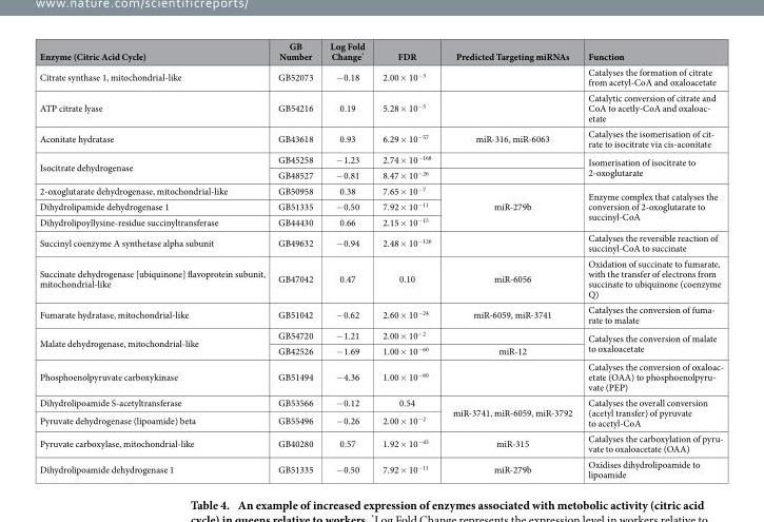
<table><thead><tr><td>Enzyme (Citric Acid Cycle)</td><td>GB Number</td><td>Log Fold Change*</td><td>FDR</td><td>Predicted Targeting miRNAs</td><td>Function</td></tr></thead><tbody><tr><td>Citrate synthase 1, mitochondrial-like</td><td>GB52073</td><td>− 0.18</td><td>2.00 × 10<sup>−3</sup></td><td></td><td>Catalyses the formation of citrate from acetyl-CoA and oxaloacetate</td></tr><tr><td>ATP citrate lyase</td><td>GB54216</td><td>0.19</td><td>5.28 × 10<sup>−5</sup></td><td></td><td>Catalytic conversion of citrate and CoA to acetly-CoA and oxaloac- etate</td></tr><tr><td>Aconitate hydratase</td><td>GB43618</td><td>0.93</td><td>6.29 × 10<sup>−57</sup></td><td>miR-316, miR-6063</td><td>Catalyses the isomerisation of cit- rate to isocitrate via cis-aconitate</td></tr><tr><td rowspan="2">Isocitrate dehydrogenase</td><td>GB45258</td><td>− 1.23</td><td>2.74 × 10<sup>−168</sup></td><td></td><td rowspan="2">Isomerisation of isocitrate to 2-oxoglutarate</td></tr><tr><td>GB48527</td><td>− 0.81</td><td>8.47 × 10<sup>−26</sup></td><td></td></tr><tr><td>2-oxoglutarate dehydrogenase, mitochondrial-like</td><td>GB50958</td><td>0.38</td><td>7.65 × 10<sup>−7</sup></td><td rowspan="3">miR-279b</td><td rowspan="3">Enzyme complex that catalyses the conversion of 2-oxoglutarate to succinyl-CoA</td></tr><tr><td>Dihydrolipamide dehydrogenase 1</td><td>GB51335</td><td>− 0.50</td><td>7.92 × 10<sup>−11</sup></td></tr><tr><td>Dihydrolipoyllysine-residue succinyltransferase</td><td>GB44430</td><td>0.66</td><td>2.15 × 10<sup>−15</sup></td></tr><tr><td>Succinyl coenzyme A synthetase alpha subunit</td><td>GB49632</td><td>− 0.94</td><td>2.48 × 10<sup>−126</sup></td><td></td><td>Catalyses the reversible reaction of succinyl-CoA to succinate</td></tr><tr><td>Succinate dehydrogenase [ubiquinone] flavoprotein subunit, mitochondrial-like</td><td>GB47042</td><td>0.47</td><td>0.10</td><td>miR-6056</td><td>Oxidation of succinate to fumarate, with the transfer of electrons from succinate to ubiquinone (coenzyme Q)</td></tr><tr><td>Fumarate hydratase, mitochondrial-like</td><td>GB51042</td><td>− 0.62</td><td>2.60 × 10<sup>−24</sup></td><td>miR-6059, miR-3741</td><td>Catalyses the conversion of fuma- rate to malate</td></tr><tr><td rowspan="2">Malate dehydrogenase, mitochondrial-like</td><td>GB54720</td><td>− 1.21</td><td>2.00 × 10<sup>−2</sup></td><td></td><td rowspan="2">Catalyses the conversion of malate to oxaloacetate</td></tr><tr><td>GB42526</td><td>− 1.69</td><td>1.00 × 10<sup>−60</sup></td><td>miR-12</td></tr><tr><td>Phosphoenolpyruvate carboxykinase</td><td>GB51494</td><td>− 4.36</td><td>1.00 × 10<sup>−60</sup></td><td></td><td>Catalyses the conversion of oxaloac- etate (OAA) to phosphoenolpyru- vate (PEP)</td></tr><tr><td>Dihydrolipoamide S-acetyltransferase</td><td>GB53566</td><td>− 0.12</td><td>0.54</td><td rowspan="2">miR-3741, miR-6059, miR-3792</td><td rowspan="2">Catalyses the overall conversion (acetyl transfer) of pyruvate to acetyl-CoA</td></tr><tr><td>Pyruvate dehydrogenase (lipoamide) beta</td><td>GB55496</td><td>− 0.26</td><td>2.00 × 10<sup>−2</sup></td></tr><tr><td>Pyruvate carboxylase, mitochondrial-like</td><td>GB40280</td><td>0.57</td><td>1.92 × 10<sup>−43</sup></td><td>miR-315</td><td>Catalyses the carboxylation of pyru- vate to oxaloacetate (OAA)</td></tr><tr><td>Dihydrolipoamide dehydrogenase 1</td><td>GB51335</td><td>− 0.50</td><td>7.92 × 10<sup>−11</sup></td><td>miR-279b</td><td>Oxidises dihydrolipoamide to lipoamide</td></tr></tbody></table>